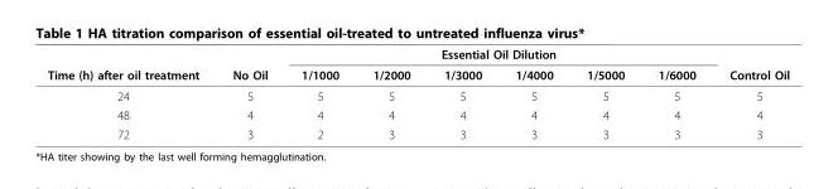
<table><thead><tr><td rowspan="2">Time (h) after oil treatment</td><td rowspan="2">No Oil</td><td colspan="6">Essential Oil Dilution</td><td rowspan="2">Control Oil</td></tr><tr><td>1/1000</td><td>1/2000</td><td>1/3000</td><td>1/4000</td><td>1/5000</td><td>1/6000</td></tr></thead><tbody><tr><td>24</td><td>5</td><td>5</td><td>5</td><td>5</td><td>5</td><td>5</td><td>5</td><td>5</td></tr><tr><td>48</td><td>4</td><td>4</td><td>4</td><td>4</td><td>4</td><td>4</td><td>4</td><td>4</td></tr><tr><td>72</td><td>3</td><td>2</td><td>3</td><td>3</td><td>3</td><td>3</td><td>3</td><td>3</td></tr></tbody></table>